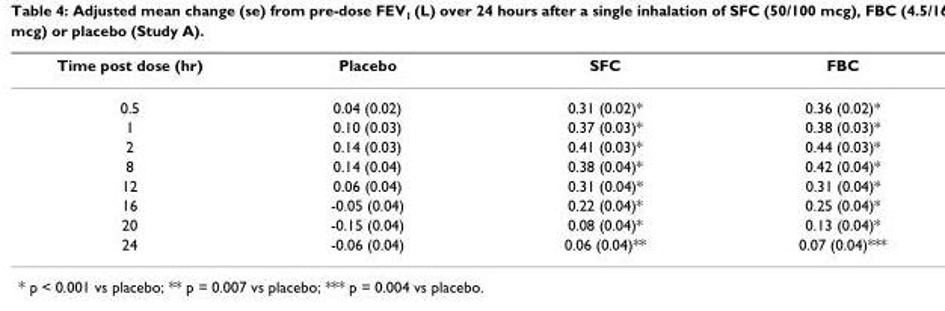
<table><thead><tr><td>Time post dose (hr)</td><td>Placebo</td><td>SFC</td><td>FBC</td></tr></thead><tbody><tr><td>0.5</td><td>0.04 (0.02)</td><td>0.31 (0.02)*</td><td>0.36 (0.02)*</td></tr><tr><td>1</td><td>0.10 (0.03)</td><td>0.37 (0.03)*</td><td>0.38 (0.03)*</td></tr><tr><td>2</td><td>0.14 (0.03)</td><td>0.41 (0.03)*</td><td>0.44 (0.03)*</td></tr><tr><td>8</td><td>0.14 (0.04)</td><td>0.38 (0.04)*</td><td>0.42 (0.04)*</td></tr><tr><td>12</td><td>0.06 (0.04)</td><td>0.31 (0.04)*</td><td>0.31 (0.04)*</td></tr><tr><td>16</td><td>-0.05 (0.04)</td><td>0.22 (0.04)*</td><td>0.25 (0.04)*</td></tr><tr><td>20</td><td>-0.15 (0.04)</td><td>0.08 (0.04)*</td><td>0.13 (0.04)*</td></tr><tr><td>24</td><td>-0.06 (0.04)</td><td>0.06 (0.04)**</td><td>0.07 (0.04)***</td></tr></tbody></table>